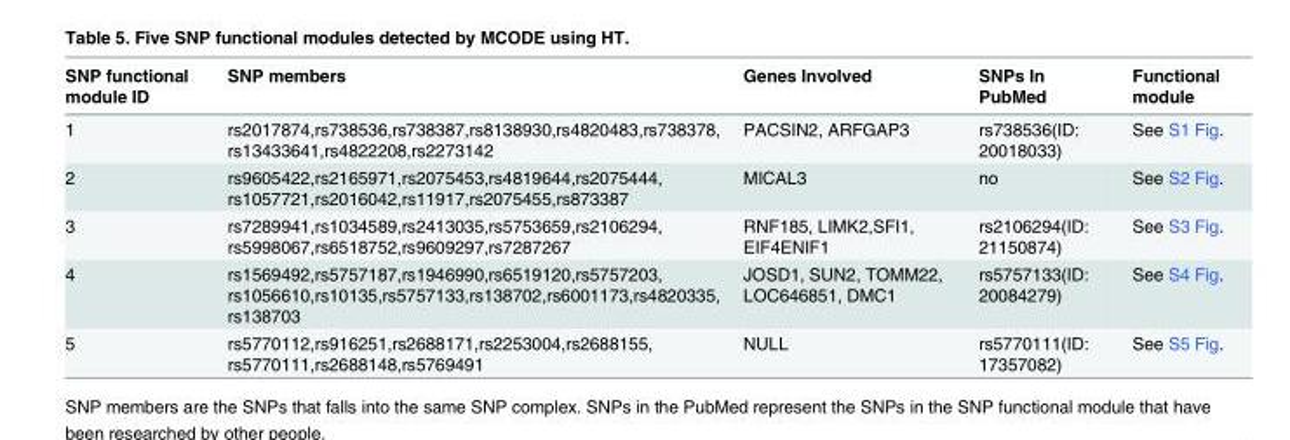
<table><thead><tr><td>SNP functional module ID</td><td>SNP members</td><td>Genes Involved</td><td>SNPs In PubMed</td><td>Functional module</td></tr></thead><tbody><tr><td>1</td><td>rs2017874,rs738536,rs738387,rs8138930,rs4820483,rs738378, rs13433641,rs4822208,rs2273142</td><td>PACSIN2, ARFGAP3</td><td>rs738536(ID: 20018033)</td><td>See S1 Fig.</td></tr><tr><td>2</td><td>rs9605422,rs2165971,rs2075453,rs4819644,rs2075444, rs1057721,rs2016042,rs11917,rs2075455,rs873387</td><td>MICAL3</td><td>no</td><td>See S2 Fig.</td></tr><tr><td>3</td><td>rs7289941,rs1034589,rs2413035,rs5753659,rs2106294, rs5998067,rs6518752,rs9609297,rs7287267</td><td>RNF185, LIMK2,SFI1, EIF4ENIF1</td><td>rs2106294(ID: 21150874)</td><td>See S3 Fig.</td></tr><tr><td>4</td><td>rs1569492,rs5757187,rs1946990,rs6519120,rs5757203, rs1056610,rs10135,rs5757133,rs138702,rs6001173,rs4820335, rs138703</td><td>JOSD1, SUN2, TOMM22, LOC646851, DMC1</td><td>rs5757133(ID: 20084279)</td><td>See S4 Fig.</td></tr><tr><td>5</td><td>rs5770112,rs916251,rs2688171,rs2253004,rs2688155, rs5770111,rs2688148,rs5769491</td><td>NULL</td><td>rs5770111(ID: 17357082)</td><td>See S5 Fig.</td></tr></tbody></table>